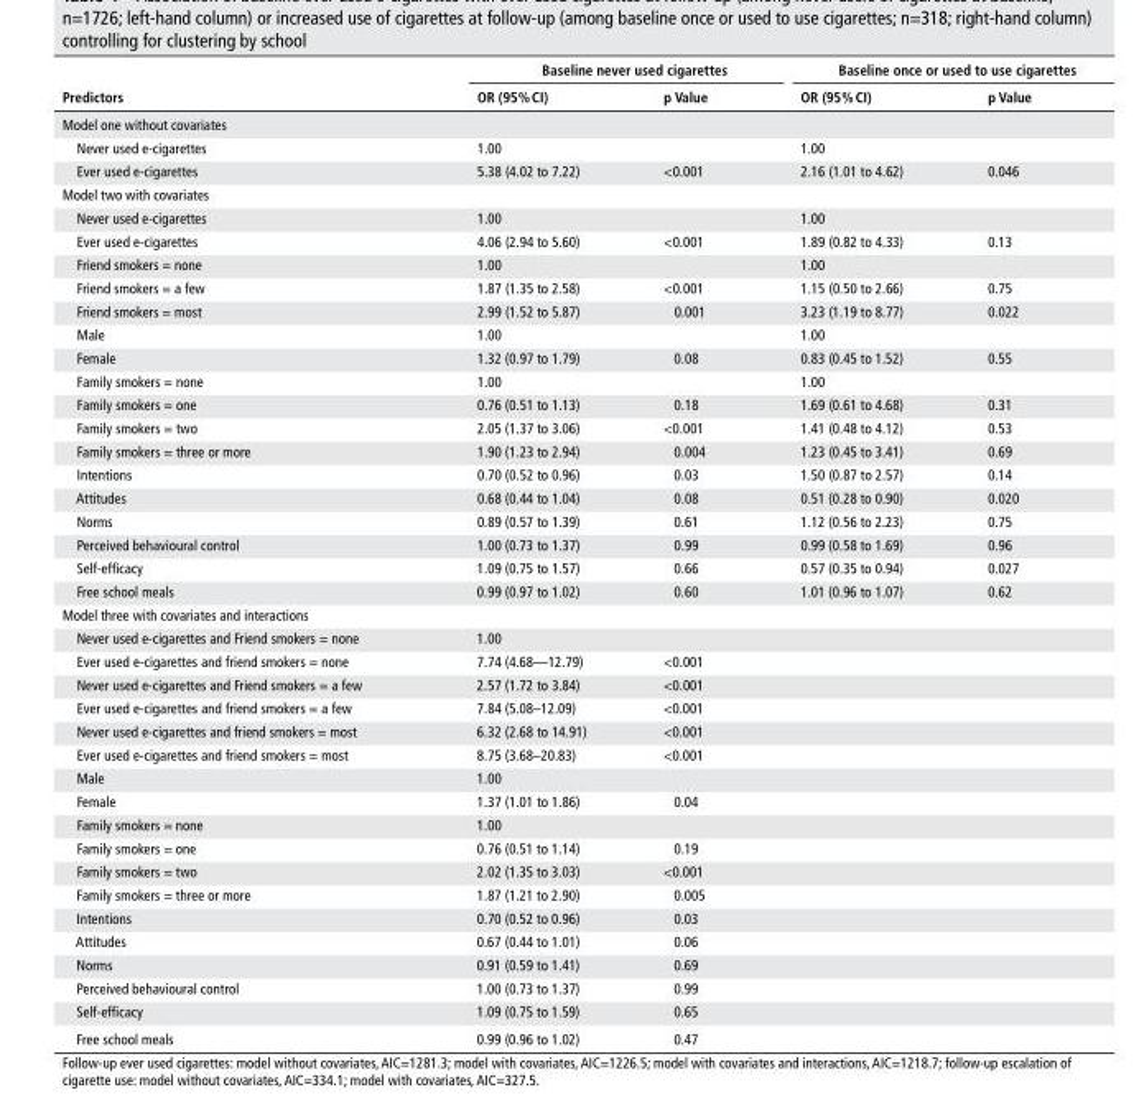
<table><thead><tr><td rowspan="2">Predictors</td><td colspan="2">baseline never used cigarettes</td><td colspan="2">baseline once or used to use cigarettes</td></tr><tr><td>oR (95% CI)</td><td>p Value</td><td>oR (95% CI)</td><td>p Value</td></tr></thead><tbody><tr><td colspan="5">Model one without covariates</td></tr><tr><td>Never used e-cigarettes</td><td>1.00</td><td></td><td>1.00</td><td></td></tr><tr><td>Ever used e-cigarettes</td><td>5.38 (4.02 to 7.22)</td><td>&lt;0.001</td><td>2.16 (1.01 to 4.62)</td><td>0.046</td></tr><tr><td colspan="5">Model two with covariates</td></tr><tr><td>Never used e-cigarettes</td><td>1.00</td><td></td><td>1.00</td><td></td></tr><tr><td>Ever used e-cigarettes</td><td>4.06 (2.94 to 5.60)</td><td>&lt;0.001</td><td>1.89 (0.82 to 4.33)</td><td>0.13</td></tr><tr><td>Friend smokers = none</td><td>1.00</td><td></td><td>1.00</td><td></td></tr><tr><td>Friend smokers = a few</td><td>1.87 (1.35 to 2.58)</td><td>&lt;0.001</td><td>1.15 (0.50 to 2.66)</td><td>0.75</td></tr><tr><td>Friend smokers = most</td><td>2.99 (1.52 to 5.87)</td><td>0.001</td><td>3.23 (1.19 to 8.77)</td><td>0.022</td></tr><tr><td>Male</td><td>1.00</td><td></td><td>1.00</td><td></td></tr><tr><td>Female</td><td>1.32 (0.97 to 1.79)</td><td>0.08</td><td>0.83 (0.45 to 1.52)</td><td>0.55</td></tr><tr><td>Family smokers = none</td><td>1.00</td><td></td><td>1.00</td><td></td></tr><tr><td>Family smokers = one</td><td>0.76 (0.51 to 1.13)</td><td>0.18</td><td>1.69 (0.61 to 4.68)</td><td>0.31</td></tr><tr><td>Family smokers = two</td><td>2.05 (1.37 to 3.06)</td><td>&lt;0.001</td><td>1.41 (0.48 to 4.12)</td><td>0.53</td></tr><tr><td>Family smokers = three or more</td><td>1.90 (1.23 to 2.94)</td><td>0.004</td><td>1.23 (0.45 to 3.41)</td><td>0.69</td></tr><tr><td>Intentions</td><td>0.70 (0.52 to 0.96)</td><td>0.03</td><td>1.50 (0.87 to 2.57)</td><td>0.14</td></tr><tr><td>Attitudes</td><td>0.68 (0.44 to 1.04)</td><td>0.08</td><td>0.51 (0.28 to 0.90)</td><td>0.020</td></tr><tr><td>Norms</td><td>0.89 (0.57 to 1.39)</td><td>0.61</td><td>1.12 (0.56 to 2.23)</td><td>0.75</td></tr><tr><td>Perceived behavioural control</td><td>1.00 (0.73 to 1.37)</td><td>0.99</td><td>0.99 (0.58 to 1.69)</td><td>0.96</td></tr><tr><td>Self-efficacy</td><td>1.09 (0.75 to 1.57)</td><td>0.66</td><td>0.57 (0.35 to 0.94)</td><td>0.027</td></tr><tr><td>Free school meals</td><td>0.99 (0.97 to 1.02)</td><td>0.60</td><td>1.01 (0.96 to 1.07)</td><td>0.62</td></tr><tr><td colspan="5">Model three with covariates and interactions</td></tr><tr><td>Never used e-cigarettes and Friend smokers = none</td><td>1.00</td><td></td><td></td><td></td></tr><tr><td>Ever used e-cigarettes and friend smokers = none</td><td>7.74 (4.68—12.79)</td><td>&lt;0.001</td><td></td><td></td></tr><tr><td>Never used e-cigarettes and Friend smokers = a few</td><td>2.57 (1.72 to 3.84)</td><td>&lt;0.001</td><td></td><td></td></tr><tr><td>Ever used e-cigarettes and friend smokers = a few</td><td>7.84 (5.08–12.09)</td><td>&lt;0.001</td><td></td><td></td></tr><tr><td>Never used e-cigarettes and friend smokers = most</td><td>6.32 (2.68 to 14.91)</td><td>&lt;0.001</td><td></td><td></td></tr><tr><td>Ever used e-cigarettes and friend smokers = most</td><td>8.75 (3.68–20.83)</td><td>&lt;0.001</td><td></td><td></td></tr><tr><td>Male</td><td>1.00</td><td></td><td></td><td></td></tr><tr><td>Female</td><td>1.37 (1.01 to 1.86)</td><td>0.04</td><td></td><td></td></tr><tr><td>Family smokers = none</td><td>1.00</td><td></td><td></td><td></td></tr><tr><td>Family smokers = one</td><td>0.76 (0.51 to 1.14)</td><td>0.19</td><td></td><td></td></tr><tr><td>Family smokers = two</td><td>2.02 (1.35 to 3.03)</td><td>&lt;0.001</td><td></td><td></td></tr><tr><td>Family smokers = three or more</td><td>1.87 (1.21 to 2.90)</td><td>0.005</td><td></td><td></td></tr><tr><td>Intentions</td><td>0.70 (0.52 to 0.96)</td><td>0.03</td><td></td><td></td></tr><tr><td>Attitudes</td><td>0.67 (0.44 to 1.01)</td><td>0.06</td><td></td><td></td></tr><tr><td>Norms</td><td>0.91 (0.59 to 1.41)</td><td>0.69</td><td></td><td></td></tr><tr><td>Perceived behavioural control</td><td>1.00 (0.73 to 1.37)</td><td>0.99</td><td></td><td></td></tr><tr><td>Self-efficacy</td><td>1.09 (0.75 to 1.59)</td><td>0.65</td><td></td><td></td></tr><tr><td>Free school meals</td><td>0.99 (0.96 to 1.02)</td><td>0.47</td><td></td><td></td></tr></tbody></table>